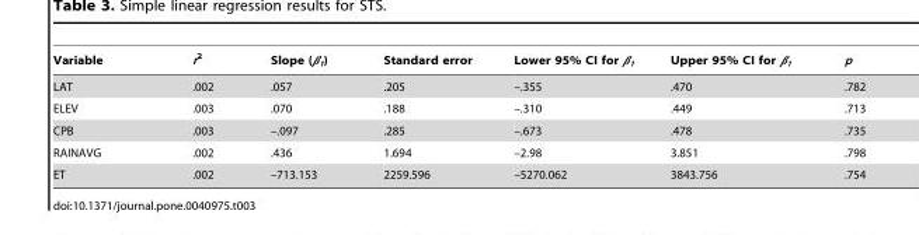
<table><thead><tr><td>Variable</td><td>r<sup>2</sup></td><td>Slope (β<sub>1</sub>)</td><td>Standard error</td><td>Lower 95% CI for β<sub>1</sub></td><td>Upper 95% CI for β<sub>1</sub></td><td>p</td></tr></thead><tbody><tr><td>LAT</td><td>.002</td><td>.057</td><td>.205</td><td>–.355</td><td>.470</td><td>.782</td></tr><tr><td>ELEV</td><td>.003</td><td>.070</td><td>.188</td><td>–.310</td><td>.449</td><td>.713</td></tr><tr><td>CPB</td><td>.003</td><td>–.097</td><td>.285</td><td>–.673</td><td>.478</td><td>.735</td></tr><tr><td>RAINAVG</td><td>.002</td><td>.436</td><td>1.694</td><td>–2.98</td><td>3.851</td><td>.798</td></tr><tr><td>ET</td><td>.002</td><td>–713.153</td><td>2259.596</td><td>–5270.062</td><td>3843.756</td><td>.754</td></tr></tbody></table>